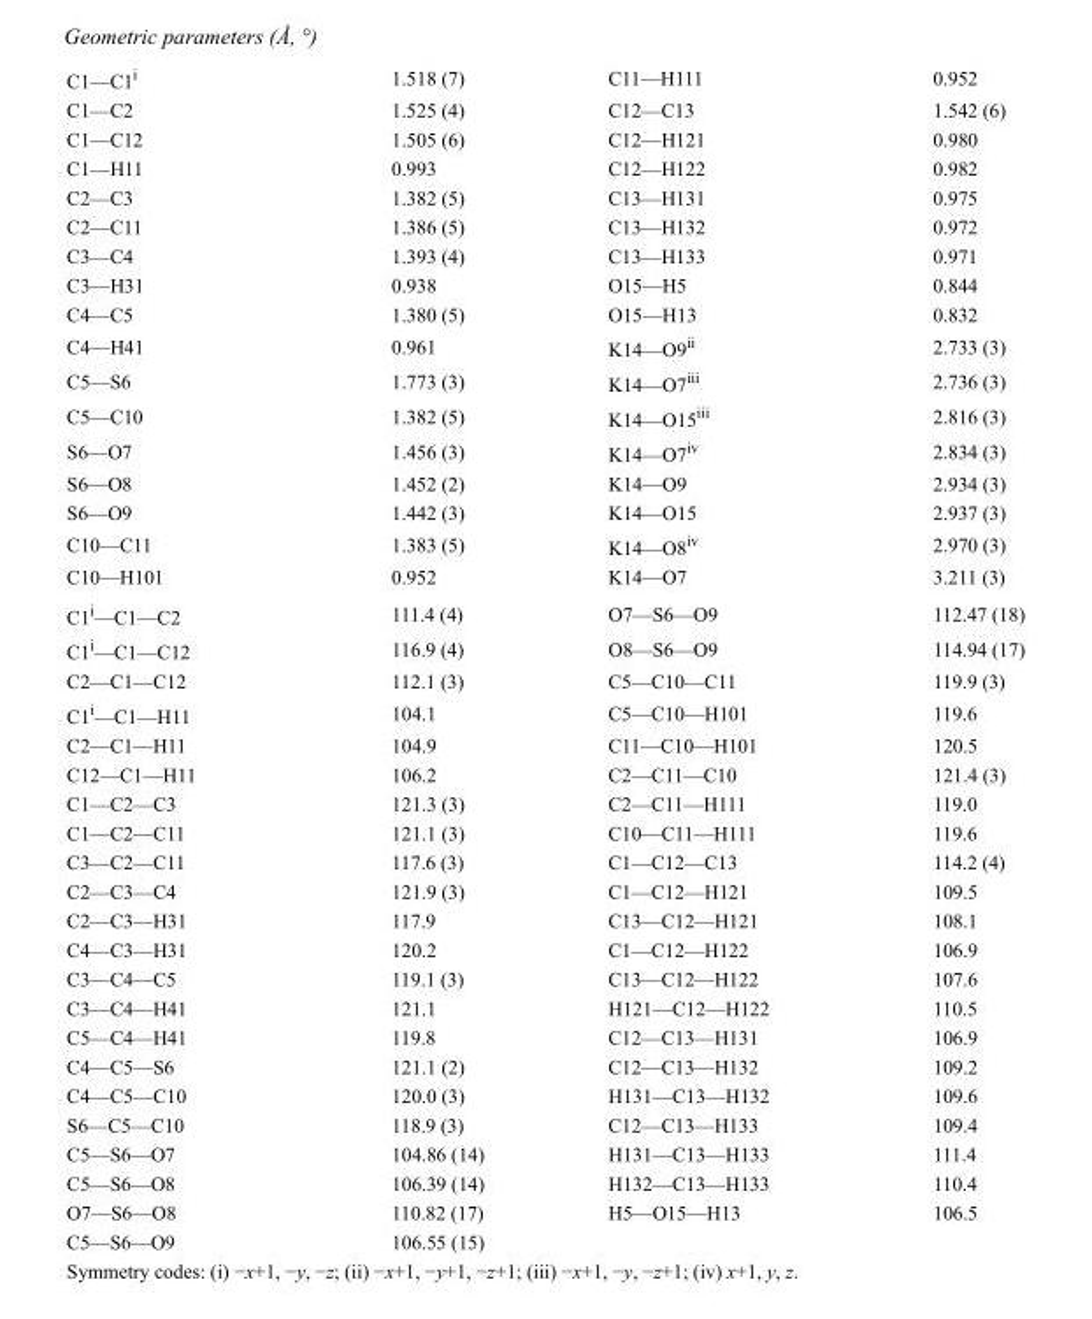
<table><tbody><tr><td>C1—C1<sup>i</sup></td><td>1.518 (7)</td><td>C11—H111</td><td>0.952</td></tr><tr><td>C1—C2</td><td>1.525 (4)</td><td>C12—C13</td><td>1.542 (6)</td></tr><tr><td>C1—C12</td><td>1.505 (6)</td><td>C12—H121</td><td>0.980</td></tr><tr><td>C1—H11</td><td>0.993</td><td>C12—H122</td><td>0.982</td></tr><tr><td>C2—C3</td><td>1.382 (5)</td><td>C13—H131</td><td>0.975</td></tr><tr><td>C2—C11</td><td>1.386 (5)</td><td>C13—H132</td><td>0.972</td></tr><tr><td>C3—C4</td><td>1.393 (4)</td><td>C13—H133</td><td>0.971</td></tr><tr><td>C3—H31</td><td>0.938</td><td>O15—H5</td><td>0.844</td></tr><tr><td>C4—C5</td><td>1.380 (5)</td><td>O15—H13</td><td>0.832</td></tr><tr><td>C4—H41</td><td>0.961</td><td>K14—O9<sup>ii</sup></td><td>2.733 (3)</td></tr><tr><td>C5—S6</td><td>1.773 (3)</td><td>K14—O7<sup>iii</sup></td><td>2.736 (3)</td></tr><tr><td>C5—C10</td><td>1.382 (5)</td><td>K14—O15<sup>iii</sup></td><td>2.816 (3)</td></tr><tr><td>S6—O7</td><td>1.456 (3)</td><td>K14—O7<sup>iv</sup></td><td>2.834 (3)</td></tr><tr><td>S6—O8</td><td>1.452 (2)</td><td>K14—O9</td><td>2.934 (3)</td></tr><tr><td>S6—O9</td><td>1.442 (3)</td><td>K14—O15</td><td>2.937 (3)</td></tr><tr><td>C10—C11</td><td>1.383 (5)</td><td>K14—O8<sup>iv</sup></td><td>2.970 (3)</td></tr><tr><td>C10—H101</td><td>0.952</td><td>K14—O7</td><td>3.211 (3)</td></tr><tr><td>C1<sup>i</sup>—C1—C2</td><td>111.4 (4)</td><td>O7—S6—O9</td><td>112.47 (18)</td></tr><tr><td>C1<sup>i</sup>—C1—C12</td><td>116.9 (4)</td><td>O8—S6—O9</td><td>114.94 (17)</td></tr><tr><td>C2—C1—C12</td><td>112.1 (3)</td><td>C5—C10—C11</td><td>119.9 (3)</td></tr><tr><td>C1<sup>i</sup>—C1—H11</td><td>104.1</td><td>C5—C10—H101</td><td>119.6</td></tr><tr><td>C2—C1—H11</td><td>104.9</td><td>C11—C10—H101</td><td>120.5</td></tr><tr><td>C12—C1—H11</td><td>106.2</td><td>C2—C11—C10</td><td>121.4 (3)</td></tr><tr><td>C1—C2—C3</td><td>121.3 (3)</td><td>C2—C11—H111</td><td>119.0</td></tr><tr><td>C1—C2—C11</td><td>121.1 (3)</td><td>C10—C11—H111</td><td>119.6</td></tr><tr><td>C3—C2—C11</td><td>117.6 (3)</td><td>C1—C12—C13</td><td>114.2 (4)</td></tr><tr><td>C2—C3—C4</td><td>121.9 (3)</td><td>C1—C12—H121</td><td>109.5</td></tr><tr><td>C2—C3—H31</td><td>117.9</td><td>C13—C12—H121</td><td>108.1</td></tr><tr><td>C4—C3—H31</td><td>120.2</td><td>C1—C12—H122</td><td>106.9</td></tr><tr><td>C3—C4—C5</td><td>119.1 (3)</td><td>C13—C12—H122</td><td>107.6</td></tr><tr><td>C3—C4—H41</td><td>121.1</td><td>H121—C12—H122</td><td>110.5</td></tr><tr><td>C5—C4—H41</td><td>119.8</td><td>C12—C13—H131</td><td>106.9</td></tr><tr><td>C4—C5—S6</td><td>121.1 (2)</td><td>C12—C13—H132</td><td>109.2</td></tr><tr><td>C4—C5—C10</td><td>120.0 (3)</td><td>H131—C13—H132</td><td>109.6</td></tr><tr><td>S6—C5—C10</td><td>118.9 (3)</td><td>C12—C13—H133</td><td>109.4</td></tr><tr><td>C5—S6—O7</td><td>104.86 (14)</td><td>H131—C13—H133</td><td>111.4</td></tr><tr><td>C5—S6—O8</td><td>106.39 (14)</td><td>H132—C13—H133</td><td>110.4</td></tr><tr><td>O7—S6—O8</td><td>110.82 (17)</td><td>H5—O15—H13</td><td>106.5</td></tr><tr><td>C5—S6—O9</td><td>106.55 (15)</td><td></td><td></td></tr></tbody></table>